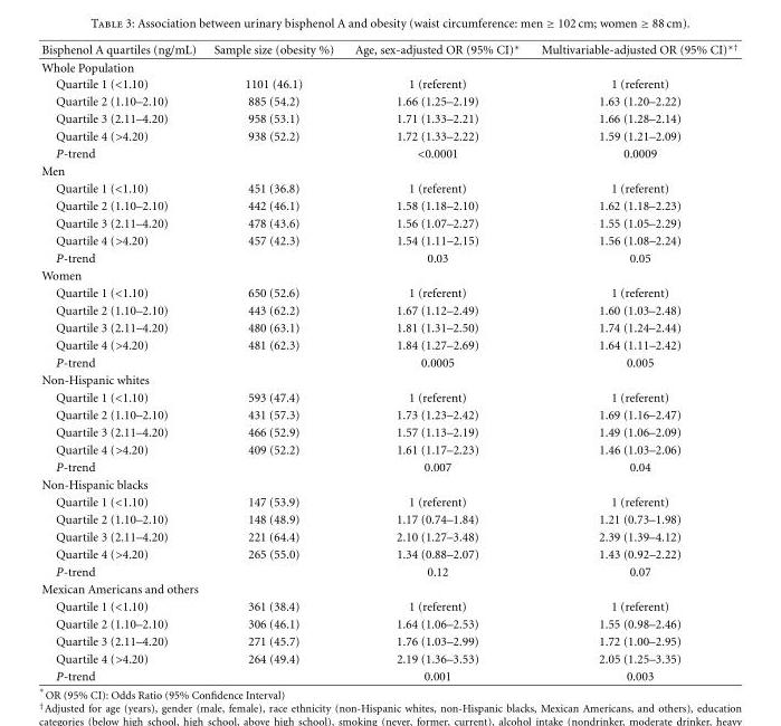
<table><thead><tr><td>Bisphenol A quartiles (ng/mL)</td><td>Sample size (obesity %)</td><td>Age, sex-adjusted OR (95% CI)∗</td><td>Multivariable-adjusted OR (95% CI)<sup>∗†</sup></td></tr></thead><tbody><tr><td colspan="4">Whole Population</td></tr><tr><td>Quartile 1 (&lt;1.10)</td><td>1101 (46.1)</td><td>1 (referent)</td><td>1 (referent)</td></tr><tr><td>Quartile 2 (1.10–2.10)</td><td>885 (54.2)</td><td>1.66 (1.25–2.19)</td><td>1.63 (1.20–2.22)</td></tr><tr><td>Quartile 3 (2.11–4.20)</td><td>958 (53.1)</td><td>1.71 (1.33–2.21)</td><td>1.66 (1.28–2.14)</td></tr><tr><td>Quartile 4 (&gt;4.20)</td><td>938 (52.2)</td><td>1.72 (1.33–2.22)</td><td>1.59 (1.21–2.09)</td></tr><tr><td>P-trend</td><td></td><td>&lt;0.0001</td><td>0.0009</td></tr><tr><td colspan="4">Men</td></tr><tr><td>Quartile 1 (&lt;1.10)</td><td>451 (36.8)</td><td>1 (referent)</td><td>1 (referent)</td></tr><tr><td>Quartile 2 (1.10–2.10)</td><td>442 (46.1)</td><td>1.58 (1.18–2.10)</td><td>1.62 (1.18–2.23)</td></tr><tr><td>Quartile 3 (2.11–4.20)</td><td>478 (43.6)</td><td>1.56 (1.07–2.27)</td><td>1.55 (1.05–2.29)</td></tr><tr><td>Quartile 4 (&gt;4.20)</td><td>457 (42.3)</td><td>1.54 (1.11–2.15)</td><td>1.56 (1.08–2.24)</td></tr><tr><td>P-trend</td><td></td><td>0.03</td><td>0.05</td></tr><tr><td colspan="4">Women</td></tr><tr><td>Quartile 1 (&lt;1.10)</td><td>650 (52.6)</td><td>1 (referent)</td><td>1 (referent)</td></tr><tr><td>Quartile 2 (1.10–2.10)</td><td>443 (62.2)</td><td>1.67 (1.12–2.49)</td><td>1.60 (1.03–2.48)</td></tr><tr><td>Quartile 3 (2.11–4.20)</td><td>480 (63.1)</td><td>1.81 (1.31–2.50)</td><td>1.74 (1.24–2.44)</td></tr><tr><td>Quartile 4 (&gt;4.20)</td><td>481 (62.3)</td><td>1.84 (1.27–2.69)</td><td>1.64 (1.11–2.42)</td></tr><tr><td>P-trend</td><td></td><td>0.0005</td><td>0.005</td></tr><tr><td colspan="4">Non-Hispanic whites</td></tr><tr><td>Quartile 1 (&lt;1.10)</td><td>593 (47.4)</td><td>1 (referent)</td><td>1 (referent)</td></tr><tr><td>Quartile 2 (1.10–2.10)</td><td>431 (57.3)</td><td>1.73 (1.23–2.42)</td><td>1.69 (1.16–2.47)</td></tr><tr><td>Quartile 3 (2.11–4.20)</td><td>466 (52.9)</td><td>1.57 (1.13–2.19)</td><td>1.49 (1.06–2.09)</td></tr><tr><td>Quartile 4 (&gt;4.20)</td><td>409 (52.2)</td><td>1.61 (1.17–2.23)</td><td>1.46 (1.03–2.06)</td></tr><tr><td>P-trend</td><td></td><td>0.007</td><td>0.04</td></tr><tr><td colspan="4">Non-Hispanic blacks</td></tr><tr><td>Quartile 1 (&lt;1.10)</td><td>147 (53.9)</td><td>1 (referent)</td><td>1 (referent)</td></tr><tr><td>Quartile 2 (1.10–2.10)</td><td>148 (48.9)</td><td>1.17 (0.74–1.84)</td><td>1.21 (0.73–1.98)</td></tr><tr><td>Quartile 3 (2.11–4.20)</td><td>221 (64.4)</td><td>2.10 (1.27–3.48)</td><td>2.39 (1.39–4.12)</td></tr><tr><td>Quartile 4 (&gt;4.20)</td><td>265 (55.0)</td><td>1.34 (0.88–2.07)</td><td>1.43 (0.92–2.22)</td></tr><tr><td>P-trend</td><td></td><td>0.12</td><td>0.07</td></tr><tr><td colspan="4">Mexican Americans and others</td></tr><tr><td>Quartile 1 (&lt;1.10)</td><td>361 (38.4)</td><td>1 (referent)</td><td>1 (referent)</td></tr><tr><td>Quartile 2 (1.10–2.10)</td><td>306 (46.1)</td><td>1.64 (1.06–2.53)</td><td>1.55 (0.98–2.46)</td></tr><tr><td>Quartile 3 (2.11–4.20)</td><td>271 (45.7)</td><td>1.76 (1.03–2.99)</td><td>1.72 (1.00–2.95)</td></tr><tr><td>Quartile 4 (&gt;4.20)</td><td>264 (49.4)</td><td>2.19 (1.36–3.53)</td><td>2.05 (1.25–3.35)</td></tr><tr><td>P-trend</td><td></td><td>0.001</td><td>0.003</td></tr></tbody></table>